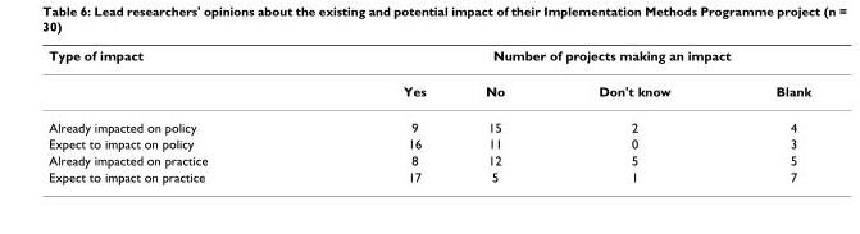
<table><thead><tr><td rowspan="2">Type of impact</td><td colspan="4">Number of projects making an impact</td></tr><tr><td>Yes</td><td>No</td><td>Don&#x27;t know</td><td>Blank</td></tr></thead><tbody><tr><td>Already impacted on policy</td><td>9</td><td>15</td><td>2</td><td>4</td></tr><tr><td>Expect to impact on policy</td><td>16</td><td>11</td><td>0</td><td>3</td></tr><tr><td>Already impacted on practice</td><td>8</td><td>12</td><td>5</td><td>5</td></tr><tr><td>Expect to impact on practice</td><td>17</td><td>5</td><td>1</td><td>7</td></tr></tbody></table>